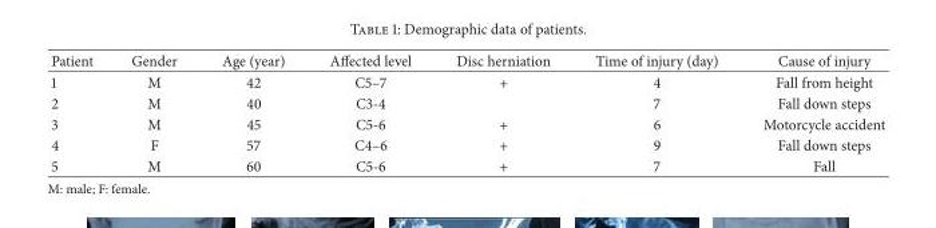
<table><thead><tr><td>Patient</td><td>Gender</td><td>Age (year)</td><td>Affected level</td><td>Disc herniation</td><td>Time of injury (day)</td><td>Cause of injury</td></tr></thead><tbody><tr><td>1</td><td>M</td><td>42</td><td>C5–7</td><td>+</td><td>4</td><td>Fall from height</td></tr><tr><td>2</td><td>M</td><td>40</td><td>C3-4</td><td></td><td>7</td><td>Fall down steps</td></tr><tr><td>3</td><td>M</td><td>45</td><td>C5-6</td><td>+</td><td>6</td><td>Motorcycle accident</td></tr><tr><td>4</td><td>F</td><td>57</td><td>C4–6</td><td>+</td><td>9</td><td>Fall down steps</td></tr><tr><td>5</td><td>M</td><td>60</td><td>C5-6</td><td>+</td><td>7</td><td>Fall</td></tr></tbody></table>